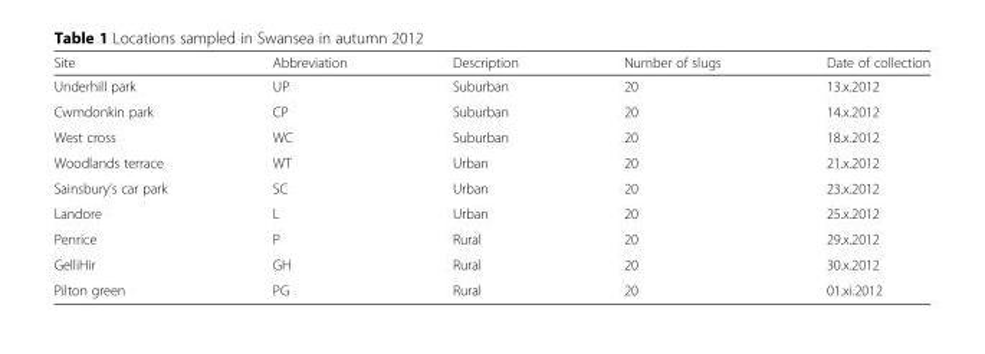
<table><thead><tr><td>Site</td><td>Abbreviation</td><td>Description</td><td>Number of slugs</td><td>Date of collection</td></tr></thead><tbody><tr><td>Underhill park</td><td>UP</td><td>Suburban</td><td>20</td><td>13.x.2012</td></tr><tr><td>Cwmdonkin park</td><td>CP</td><td>Suburban</td><td>20</td><td>14.x.2012</td></tr><tr><td>West cross</td><td>WC</td><td>Suburban</td><td>20</td><td>18.x.2012</td></tr><tr><td>Woodlands terrace</td><td>WT</td><td>Urban</td><td>20</td><td>21.x.2012</td></tr><tr><td>Sainsbury’s car park</td><td>SC</td><td>Urban</td><td>20</td><td>23.x.2012</td></tr><tr><td>Landore</td><td>L</td><td>Urban</td><td>20</td><td>25.x.2012</td></tr><tr><td>Penrice</td><td>P</td><td>Rural</td><td>20</td><td>29.x.2012</td></tr><tr><td>GelliHir</td><td>GH</td><td>Rural</td><td>20</td><td>30.x.2012</td></tr><tr><td>Pilton green</td><td>PG</td><td>Rural</td><td>20</td><td>01.xi.2012</td></tr></tbody></table>